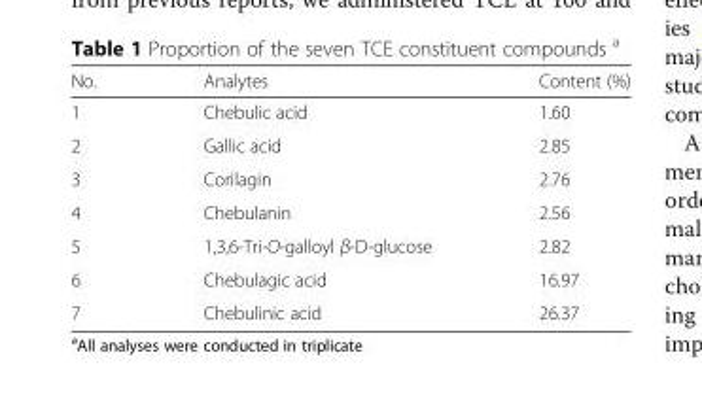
<table><thead><tr><td>No.</td><td>Analytes</td><td>Content (%)</td></tr></thead><tbody><tr><td>1</td><td>Chebulic acid</td><td>1.60</td></tr><tr><td>2</td><td>Gallic acid</td><td>2.85</td></tr><tr><td>3</td><td>Corilagin</td><td>2.76</td></tr><tr><td>4</td><td>Chebulanin</td><td>2.56</td></tr><tr><td>5</td><td>1,3,6-Tri-O-galloyl β-D-glucose</td><td>2.82</td></tr><tr><td>6</td><td>Chebulagic acid</td><td>16.97</td></tr><tr><td>7</td><td>Chebulinic acid</td><td>26.37</td></tr></tbody></table>